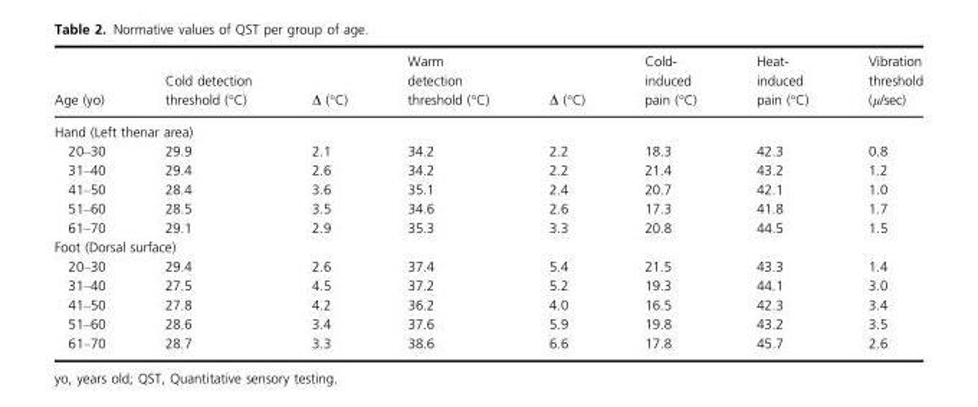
<table><thead><tr><td>Age (yo)</td><td>Cold detection threshold (°C)</td><td>Δ (°C)</td><td>Warm detection threshold (°C)</td><td>Δ (°C)</td><td>Cold- induced pain (°C)</td><td>Heat- induced pain (°C)</td><td>Vibration threshold (μ/sec)</td></tr></thead><tbody><tr><td colspan="8">Hand (Left thenar area)</td></tr><tr><td>20–30</td><td>29.9</td><td>2.1</td><td>34.2</td><td>2.2</td><td>18.3</td><td>42.3</td><td>0.8</td></tr><tr><td>31–40</td><td>29.4</td><td>2.6</td><td>34.2</td><td>2.2</td><td>21.4</td><td>43.2</td><td>1.2</td></tr><tr><td>41–50</td><td>28.4</td><td>3.6</td><td>35.1</td><td>2.4</td><td>20.7</td><td>42.1</td><td>1.0</td></tr><tr><td>51–60</td><td>28.5</td><td>3.5</td><td>34.6</td><td>2.6</td><td>17.3</td><td>41.8</td><td>1.7</td></tr><tr><td>61–70</td><td>29.1</td><td>2.9</td><td>35.3</td><td>3.3</td><td>20.8</td><td>44.5</td><td>1.5</td></tr><tr><td colspan="8">Foot (Dorsal surface)</td></tr><tr><td>20–30</td><td>29.4</td><td>2.6</td><td>37.4</td><td>5.4</td><td>21.5</td><td>43.3</td><td>1.4</td></tr><tr><td>31–40</td><td>27.5</td><td>4.5</td><td>37.2</td><td>5.2</td><td>19.3</td><td>44.1</td><td>3.0</td></tr><tr><td>41–50</td><td>27.8</td><td>4.2</td><td>36.2</td><td>4.0</td><td>16.5</td><td>42.3</td><td>3.4</td></tr><tr><td>51–60</td><td>28.6</td><td>3.4</td><td>37.6</td><td>5.9</td><td>19.8</td><td>43.2</td><td>3.5</td></tr><tr><td>61–70</td><td>28.7</td><td>3.3</td><td>38.6</td><td>6.6</td><td>17.8</td><td>45.7</td><td>2.6</td></tr></tbody></table>